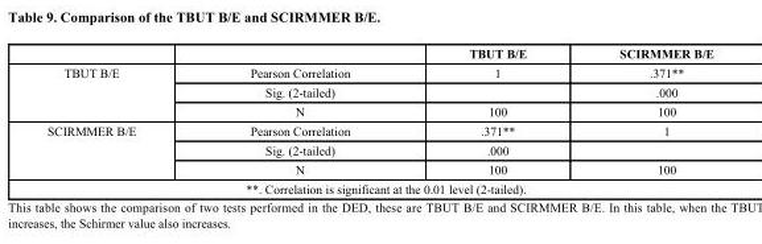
<table><thead><tr><td></td><td></td><td>TBUT B/E</td><td>SCIRMMER B/E</td></tr></thead><tbody><tr><td rowspan="3">TBUT B/E</td><td>Pearson Correlation</td><td>1</td><td>.371**</td></tr><tr><td>Sig. (2-tailed)</td><td></td><td>.000</td></tr><tr><td>N</td><td>100</td><td>100</td></tr><tr><td rowspan="3">SCIRMMER B/E</td><td>Pearson Correlation</td><td>.371**</td><td>1</td></tr><tr><td>Sig. (2-tailed)</td><td>.000</td><td></td></tr><tr><td>N</td><td>100</td><td>100</td></tr><tr><td colspan="4">**. Correlation is significant at the 0.01 level (2-tailed).</td></tr></tbody></table>